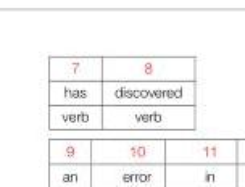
<table><tbody><tr><td>7</td><td>8</td></tr><tr><td>has</td><td>discovered</td></tr><tr><td>verb</td><td>verb</td></tr></tbody></table>